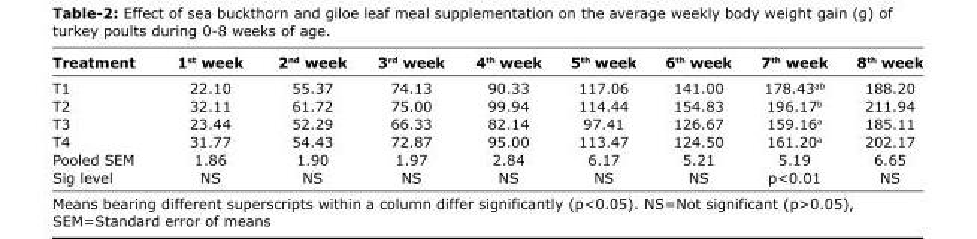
<table><thead><tr><td>Treatment</td><td>1<sup>st</sup> week</td><td>2<sup>nd</sup> week</td><td>3<sup>rd</sup> week</td><td>4<sup>th</sup> week</td><td>5<sup>th</sup> week</td><td>6<sup>th</sup> week</td><td>7<sup>th</sup> week</td><td>8<sup>th</sup> week</td></tr></thead><tbody><tr><td>T1</td><td>22.10</td><td>55.37</td><td>74.13</td><td>90.33</td><td>117.06</td><td>141.00</td><td>178.43<sup>ab</sup></td><td>188.20</td></tr><tr><td>T2</td><td>32.11</td><td>61.72</td><td>75.00</td><td>99.94</td><td>114.44</td><td>154.83</td><td>196.17<sup>b</sup></td><td>211.94</td></tr><tr><td>T3</td><td>23.44</td><td>52.29</td><td>66.33</td><td>82.14</td><td>97.41</td><td>126.67</td><td>159.16<sup>a</sup></td><td>185.11</td></tr><tr><td>T4</td><td>31.77</td><td>54.43</td><td>72.87</td><td>95.00</td><td>113.47</td><td>124.50</td><td>161.20<sup>a</sup></td><td>202.17</td></tr><tr><td>Pooled SEM</td><td>1.86</td><td>1.90</td><td>1.97</td><td>2.84</td><td>6.17</td><td>5.21</td><td>5.19</td><td>6.65</td></tr><tr><td>Sig level</td><td>NS</td><td>NS</td><td>NS</td><td>NS</td><td>NS</td><td>NS</td><td>p&lt;0.01</td><td>NS</td></tr></tbody></table>